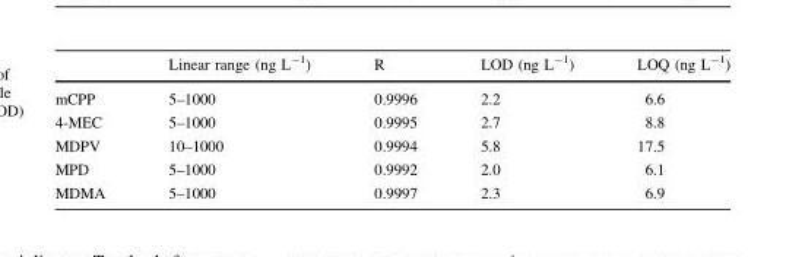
<table><thead><tr><td></td><td>Linear range (ng L<sup>-1</sup>)</td><td>R</td><td>LOD (ng L<sup>-1</sup>)</td><td>LOQ (ng L<sup>-1</sup>)</td></tr></thead><tbody><tr><td>mCPP</td><td>5–1000</td><td>0.9996</td><td>2.2</td><td>6.6</td></tr><tr><td>4-MEC</td><td>5–1000</td><td>0.9995</td><td>2.7</td><td>8.8</td></tr><tr><td>MDPV</td><td>10–1000</td><td>0.9994</td><td>5.8</td><td>17.5</td></tr><tr><td>MPD</td><td>5–1000</td><td>0.9992</td><td>2.0</td><td>6.1</td></tr><tr><td>MDMA</td><td>5–1000</td><td>0.9997</td><td>2.3</td><td>6.9</td></tr></tbody></table>